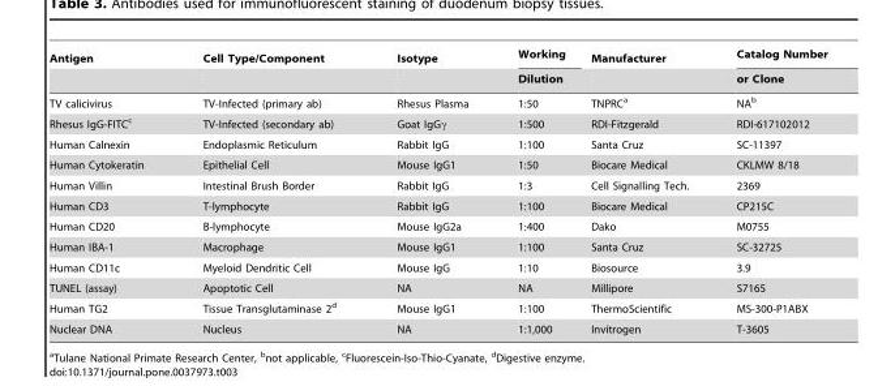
<table><thead><tr><td rowspan="2">Antigen</td><td rowspan="2">Cell Type/Component</td><td rowspan="2">Isotype</td><td rowspan="2">Working Dilution</td><td rowspan="2">Manufacturer</td><td rowspan="2">Catalog Number or Clone</td></tr><tr></tr></thead><tbody><tr><td>TV calicivirus</td><td>TV-Infected (primary ab)</td><td>Rhesus Plasma</td><td>1:50</td><td>TNPRC<sup>a</sup></td><td>NA<sup>b</sup></td></tr><tr><td>Rhesus IgG-FITC<sup>c</sup></td><td>TV-Infected (secondary ab)</td><td>Goat IgGγ</td><td>1:500</td><td>RDI-Fitzgerald</td><td>RDI-617102012</td></tr><tr><td>Human Calnexin</td><td>Endoplasmic Reticulum</td><td>Rabbit IgG</td><td>1:100</td><td>Santa Cruz</td><td>SC-11397</td></tr><tr><td>Human Cytokeratin</td><td>Epithelial Cell</td><td>Mouse IgG1</td><td>1:50</td><td>Biocare Medical</td><td>CKLMW 8/18</td></tr><tr><td>Human Villin</td><td>Intestinal Brush Border</td><td>Rabbit IgG</td><td>1:3</td><td>Cell Signalling Tech.</td><td>2369</td></tr><tr><td>Human CD3</td><td>T-lymphocyte</td><td>Rabbit IgG</td><td>1:100</td><td>Biocare Medical</td><td>CP215C</td></tr><tr><td>Human CD20</td><td>B-lymphocyte</td><td>Mouse IgG2a</td><td>1:400</td><td>Dako</td><td>M0755</td></tr><tr><td>Human IBA-1</td><td>Macrophage</td><td>Mouse IgG1</td><td>1:100</td><td>Santa Cruz</td><td>SC-32725</td></tr><tr><td>Human CD11c</td><td>Myeloid Dendritic Cell</td><td>Mouse IgG</td><td>1:10</td><td>Biosource</td><td>3.9</td></tr><tr><td>TUNEL (assay)</td><td>Apoptotic Cell</td><td>NA</td><td>NA</td><td>Millipore</td><td>S7165</td></tr><tr><td>Human TG2</td><td>Tissue Transglutaminase 2<sup>d</sup></td><td>Mouse IgG1</td><td>1:100</td><td>ThermoScientific</td><td>MS-300-P1ABX</td></tr><tr><td>Nuclear DNA</td><td>Nucleus</td><td>NA</td><td>1:1,000</td><td>Invitrogen</td><td>T-3605</td></tr></tbody></table>